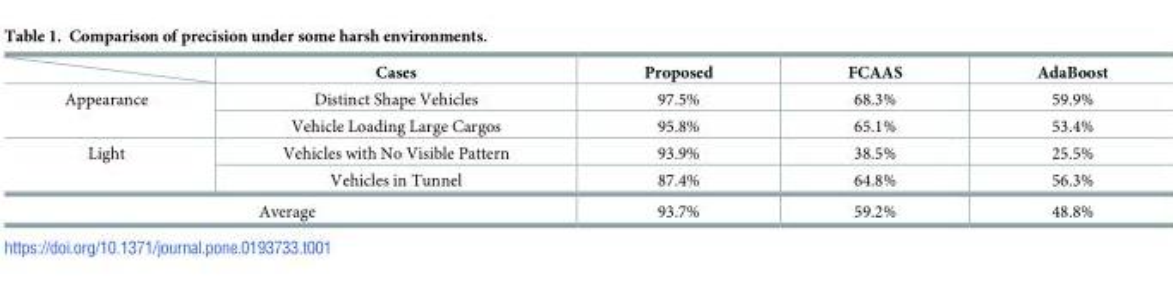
<table><thead><tr><td></td><td>Cases</td><td>Proposed</td><td>FCAAS</td><td>AdaBoost</td></tr></thead><tbody><tr><td rowspan="2">Appearance</td><td>Distinct Shape Vehicles</td><td>97.5%</td><td>68.3%</td><td>59.9%</td></tr><tr><td>Vehicle Loading Large Cargos</td><td>95.8%</td><td>65.1%</td><td>53.4%</td></tr><tr><td rowspan="2">Light</td><td>Vehicles with No Visible Pattern</td><td>93.9%</td><td>38.5%</td><td>25.5%</td></tr><tr><td>Vehicles in Tunnel</td><td>87.4%</td><td>64.8%</td><td>56.3%</td></tr><tr><td colspan="2">Average</td><td>93.7%</td><td>59.2%</td><td>48.8%</td></tr></tbody></table>